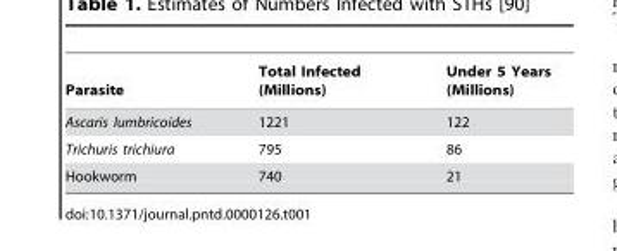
<table><thead><tr><td>Parasite</td><td>Total Infected (Millions)</td><td>Under 5 Years (Millions)</td></tr></thead><tbody><tr><td>Ascaris lumbricoides</td><td>1221</td><td>122</td></tr><tr><td>Trichuris trichiura</td><td>795</td><td>86</td></tr><tr><td>Hookworm</td><td>740</td><td>21</td></tr></tbody></table>